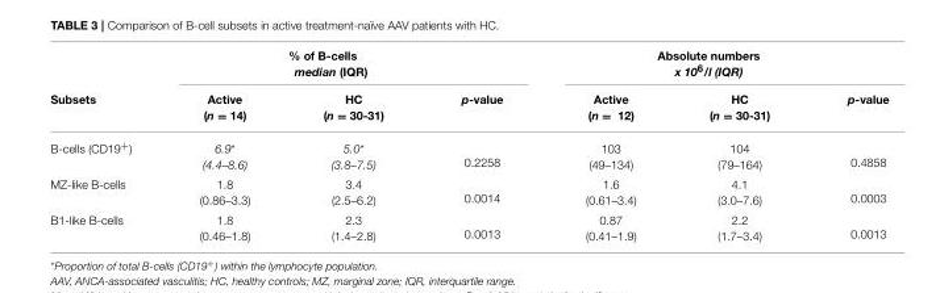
<table><thead><tr><td rowspan="2">Subsets</td><td colspan="3">% of B-cells median (IQR)</td><td colspan="3">Absolute numbers x 10<sup>6</sup>/l (IQR)</td></tr><tr><td>Active (n = 14)</td><td>HC (n = 30-31)</td><td>p-value</td><td>Active (n = 12)</td><td>HC (n = 30-31)</td><td>p-value</td></tr></thead><tbody><tr><td>B-cells (CD19<sup>+</sup>)</td><td>6.9* (4.4–8.6)</td><td>5.0* (3.8–7.5)</td><td>0.2258</td><td>103 (49–134)</td><td>104 (79–164)</td><td>0.4858</td></tr><tr><td>MZ-like B-cells</td><td>1.8 (0.86–3.3)</td><td>3.4 (2.5–6.2)</td><td>0.0014</td><td>1.6 (0.61–3.4)</td><td>4.1 (3.0–7.6)</td><td>0.0003</td></tr><tr><td>B1-like B-cells</td><td>1.8 (0.46–1.8)</td><td>2.3 (1.4–2.8)</td><td>0.0013</td><td>0.87 (0.41–1.9)</td><td>2.2 (1.7–3.4)</td><td>0.0013</td></tr></tbody></table>